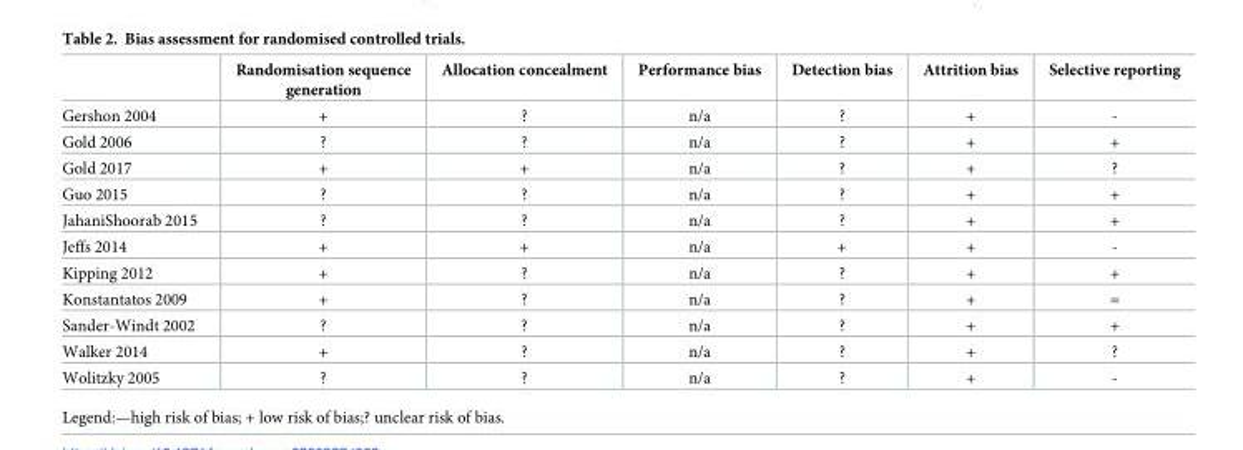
<table><thead><tr><td></td><td>Randomisation sequence generation</td><td>Allocation concealment</td><td>Performance bias</td><td>Detection bias</td><td>Attrition bias</td><td>Selective reporting</td></tr></thead><tbody><tr><td>Gershon 2004</td><td>+</td><td>?</td><td>n/a</td><td>?</td><td>+</td><td>-</td></tr><tr><td>Gold 2006</td><td>?</td><td>?</td><td>n/a</td><td>?</td><td>+</td><td>+</td></tr><tr><td>Gold 2017</td><td>+</td><td>+</td><td>n/a</td><td>?</td><td>+</td><td>?</td></tr><tr><td>Guo 2015</td><td>?</td><td>?</td><td>n/a</td><td>?</td><td>+</td><td>+</td></tr><tr><td>JahaniShoorab 2015</td><td>?</td><td>?</td><td>n/a</td><td>?</td><td>+</td><td>+</td></tr><tr><td>Jeffs 2014</td><td>+</td><td>+</td><td>n/a</td><td>+</td><td>+</td><td>-</td></tr><tr><td>Kipping 2012</td><td>+</td><td>?</td><td>n/a</td><td>?</td><td>+</td><td>+</td></tr><tr><td>Konstantatos 2009</td><td>+</td><td>?</td><td>n/a</td><td>?</td><td>+</td><td>=</td></tr><tr><td>Sander-Windt 2002</td><td>?</td><td>?</td><td>n/a</td><td>?</td><td>+</td><td>+</td></tr><tr><td>Walker 2014</td><td>+</td><td>?</td><td>n/a</td><td>?</td><td>+</td><td>?</td></tr><tr><td>Wolitzky 2005</td><td>?</td><td>?</td><td>n/a</td><td>?</td><td>+</td><td>-</td></tr></tbody></table>